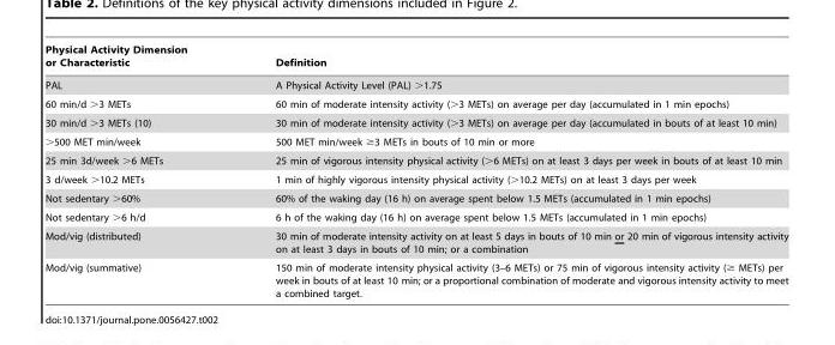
<table><thead><tr><td>Physical Activity Dimension or Characteristic</td><td>Definition</td></tr></thead><tbody><tr><td>PAL</td><td>A Physical Activity Level (PAL) &gt;1.75</td></tr><tr><td>60 min/d &gt;3 METs</td><td>60 min of moderate intensity activity (&gt;3 METs) on average per day (accumulated in 1 min epochs)</td></tr><tr><td>30 min/d &gt;3 METs (10)</td><td>30 min of moderate intensity activity (&gt;3 METs) on average per day (accumulated in bouts of at least 10 min)</td></tr><tr><td>&gt;500 MET min/week</td><td>500 MET min/week ≥3 METs in bouts of 10 min or more</td></tr><tr><td>25 min 3d/week &gt;6 METs</td><td>25 min of vigorous intensity physical activity (&gt;6 METs) on at least 3 days per week in bouts of at least 10 min</td></tr><tr><td>3 d/week &gt;10.2 METs</td><td>1 min of highly vigorous intensity physical activity (&gt;10.2 METs) on at least 3 days per week</td></tr><tr><td>Not sedentary &gt;60%</td><td>60% of the waking day (16 h) on average spent below 1.5 METs (accumulated in 1 min epochs)</td></tr><tr><td>Not sedentary &gt;6 h/d</td><td>6 h of the waking day (16 h) on average spent below 1.5 METs (accumulated in 1 min epochs)</td></tr><tr><td>Mod/vig (distributed)</td><td>30 min of moderate intensity activity on at least 5 days in bouts of 10 min or 20 min of vigorous intensity activity on at least 3 days in bouts of 10 min; or a combination</td></tr><tr><td>Mod/vig (summative)</td><td>150 min of moderate intensity physical activity (3–6 METs) or 75 min of vigorous intensity activity (≥ METs) per week in bouts of at least 10 min; or a proportional combination of moderate and vigorous intensity activity to meet a combined target.</td></tr></tbody></table>